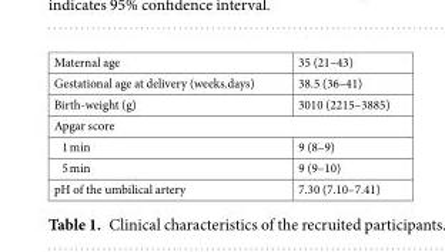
<table><tbody><tr><td>Maternal age</td><td>35 (21–43)</td></tr><tr><td>Gestational age at delivery (weeks.days)</td><td>38.5 (36–41)</td></tr><tr><td>Birth-weight (g)</td><td>3010 (2215–3885)</td></tr><tr><td colspan="2">Apgar score</td></tr><tr><td>1 min</td><td>9 (8–9)</td></tr><tr><td>5 min</td><td>9 (9–10)</td></tr><tr><td>pH of the umbilical artery</td><td>7.30 (7.10–7.41)</td></tr></tbody></table>